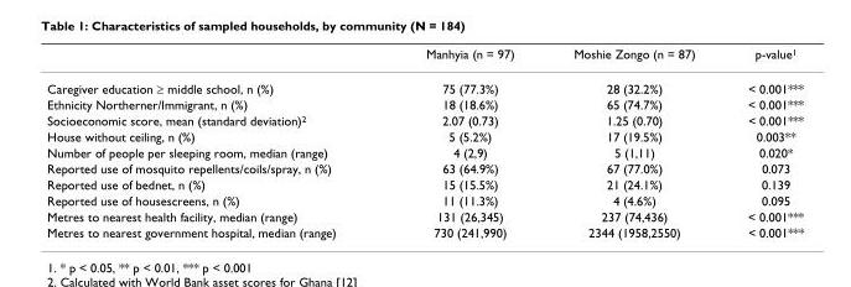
<table><thead><tr><td></td><td>Manhyia (n = 97)</td><td>Moshie Zongo (n = 87)</td><td>p-value<sup>1</sup></td></tr></thead><tbody><tr><td>Caregiver education ≥ middle school, n (%)</td><td>75 (77.3%)</td><td>28 (32.2%)</td><td>&lt; 0.001***</td></tr><tr><td>Ethnicity Northerner/Immigrant, n (%)</td><td>18 (18.6%)</td><td>65 (74.7%)</td><td>&lt; 0.001***</td></tr><tr><td>Socioeconomic score, mean (standard deviation)<sup>2</sup></td><td>2.07 (0.73)</td><td>1.25 (0.70)</td><td>&lt; 0.001***</td></tr><tr><td>House without ceiling, n (%)</td><td>5 (5.2%)</td><td>17 (19.5%)</td><td>0.003**</td></tr><tr><td>Number of people per sleeping room, median (range)</td><td>4 (2,9)</td><td>5 (1,11)</td><td>0.020*</td></tr><tr><td>Reported use of mosquito repellents/coils/spray, n (%)</td><td>63 (64.9%)</td><td>67 (77.0%)</td><td>0.073</td></tr><tr><td>Reported use of bednet, n (%)</td><td>15 (15.5%)</td><td>21 (24.1%)</td><td>0.139</td></tr><tr><td>Reported use of housescreens, n (%)</td><td>11 (11.3%)</td><td>4 (4.6%)</td><td>0.095</td></tr><tr><td>Metres to nearest health facility, median (range)</td><td>131 (26,345)</td><td>237 (74,436)</td><td>&lt; 0.001***</td></tr><tr><td>Metres to nearest government hospital, median (range)</td><td>730 (241,990)</td><td>2344 (1958,2550)</td><td>&lt; 0.001***</td></tr></tbody></table>